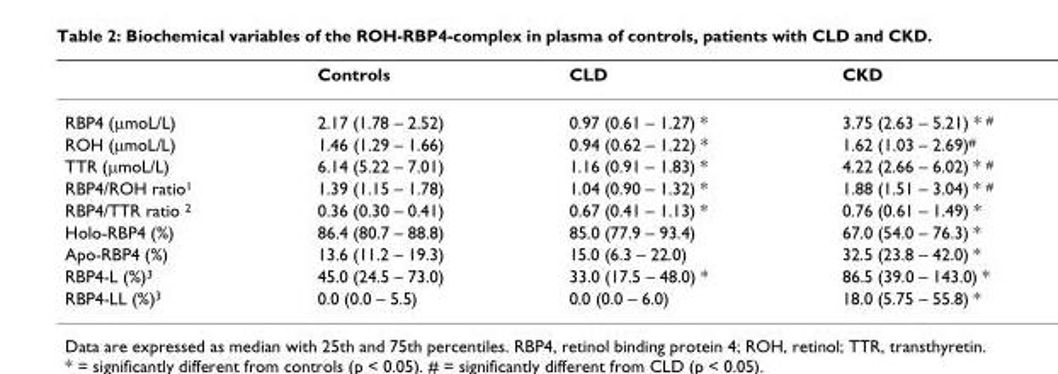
<table><thead><tr><td></td><td>Controls</td><td>CLD</td><td>CKD</td></tr></thead><tbody><tr><td>RBP4 (μmoL/L)</td><td>2.17 (1.78 – 2.52)</td><td>0.97 (0.61 – 1.27) *</td><td>3.75 (2.63 – 5.21) * <sup>#</sup></td></tr><tr><td>ROH (μmoL/L)</td><td>1.46 (1.29 – 1.66)</td><td>0.94 (0.62 – 1.22) *</td><td>1.62 (1.03 – 2.69)<sup>#</sup></td></tr><tr><td>TTR (μmoL/L)</td><td>6.14 (5.22 – 7.01)</td><td>1.16 (0.91 – 1.83) *</td><td>4.22 (2.66 – 6.02) * <sup>#</sup></td></tr><tr><td>RBP4/ROH ratio<sup>1</sup></td><td>1.39 (1.15 – 1.78)</td><td>1.04 (0.90 – 1.32) *</td><td>1.88 (1.51 – 3.04) * <sup>#</sup></td></tr><tr><td>RBP4/TTR ratio <sup>2</sup></td><td>0.36 (0.30 – 0.41)</td><td>0.67 (0.41 – 1.13) *</td><td>0.76 (0.61 – 1.49) *</td></tr><tr><td>Holo-RBP4 (%)</td><td>86.4 (80.7 – 88.8)</td><td>85.0 (77.9 – 93.4)</td><td>67.0 (54.0 – 76.3) *</td></tr><tr><td>Apo-RBP4 (%)</td><td>13.6 (11.2 – 19.3)</td><td>15.0 (6.3 – 22.0)</td><td>32.5 (23.8 – 42.0) *</td></tr><tr><td>RBP4-L (%)<sup>3</sup></td><td>45.0 (24.5 – 73.0)</td><td>33.0 (17.5 – 48.0) *</td><td>86.5 (39.0 – 143.0) *</td></tr><tr><td>RBP4-LL (%)<sup>3</sup></td><td>0.0 (0.0 – 5.5)</td><td>0.0 (0.0 – 6.0)</td><td>18.0 (5.75 – 55.8) *</td></tr></tbody></table>